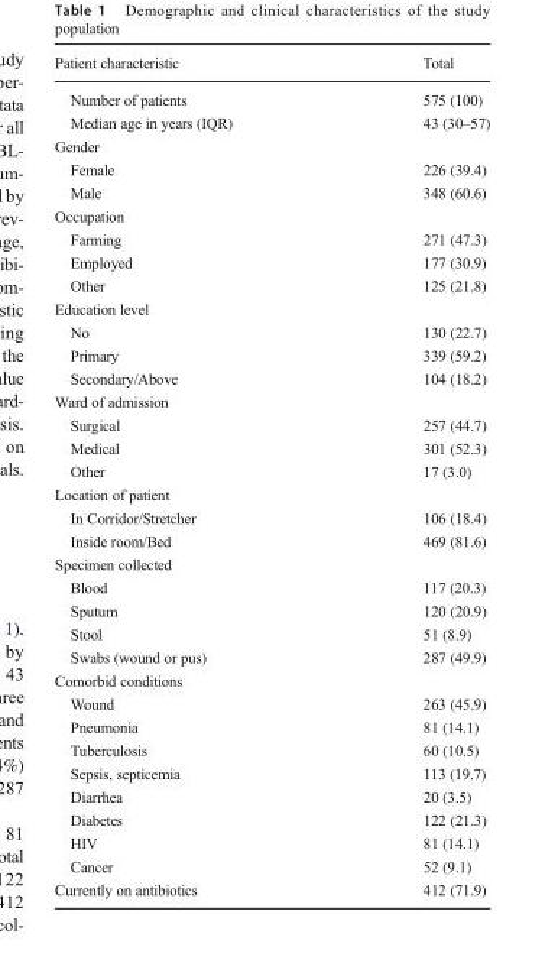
<table><thead><tr><td>Patient characteristic</td><td>Total</td></tr></thead><tbody><tr><td>Number of patients</td><td>575 (100)</td></tr><tr><td>Median age in years (IQR)</td><td>43 (30–57)</td></tr><tr><td colspan="2">Gender</td></tr><tr><td>Female</td><td>226 (39.4)</td></tr><tr><td>Male</td><td>348 (60.6)</td></tr><tr><td colspan="2">Occupation</td></tr><tr><td>Farming</td><td>271 (47.3)</td></tr><tr><td>Employed</td><td>177 (30.9)</td></tr><tr><td>Other</td><td>125 (21.8)</td></tr><tr><td colspan="2">Education level</td></tr><tr><td>No</td><td>130 (22.7)</td></tr><tr><td>Primary</td><td>339 (59.2)</td></tr><tr><td>Secondary/Above</td><td>104 (18.2)</td></tr><tr><td colspan="2">Ward of admission</td></tr><tr><td>Surgical</td><td>257 (44.7)</td></tr><tr><td>Medical</td><td>301 (52.3)</td></tr><tr><td>Other</td><td>17 (3.0)</td></tr><tr><td colspan="2">Location of patient</td></tr><tr><td>In Corridor/Stretcher</td><td>106 (18.4)</td></tr><tr><td>Inside room/Bed</td><td>469 (81.6)</td></tr><tr><td colspan="2">Specimen collected</td></tr><tr><td>Blood</td><td>117 (20.3)</td></tr><tr><td>Sputum</td><td>120 (20.9)</td></tr><tr><td>Stool</td><td>51 (8.9)</td></tr><tr><td>Swabs (wound or pus)</td><td>287 (49.9)</td></tr><tr><td colspan="2">Comorbid conditions</td></tr><tr><td>Wound</td><td>263 (45.9)</td></tr><tr><td>Pneumonia</td><td>81 (14.1)</td></tr><tr><td>Tuberculosis</td><td>60 (10.5)</td></tr><tr><td>Sepsis, septicemia</td><td>113 (19.7)</td></tr><tr><td>Diarrhea</td><td>20 (3.5)</td></tr><tr><td>Diabetes</td><td>122 (21.3)</td></tr><tr><td>HIV</td><td>81 (14.1)</td></tr><tr><td>Cancer</td><td>52 (9.1)</td></tr><tr><td>Currently on antibiotics</td><td>412 (71.9)</td></tr></tbody></table>